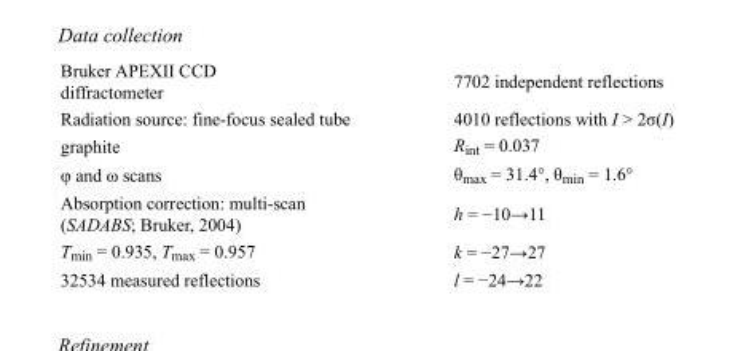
<table><tbody><tr><td>Bruker APEXII CCD diffractometer</td><td>7702 independent reflections</td></tr><tr><td>Radiation source: fine-focus sealed tube</td><td>4010 reflections with I &gt; 2σ(I)</td></tr><tr><td>graphite</td><td>R<sub>int</sub> = 0.037</td></tr><tr><td>φ and ω scans</td><td>θ<sub>max</sub> = 31.4°, θ<sub>min</sub> = 1.6°</td></tr><tr><td>Absorption correction: multi-scan (SADABS; Bruker, 2004)</td><td>h = −10→11</td></tr><tr><td>T<sub>min</sub> = 0.935, T<sub>max</sub> = 0.957</td><td>k = −27→27</td></tr><tr><td>32534 measured reflections</td><td>l = −24→22</td></tr></tbody></table>